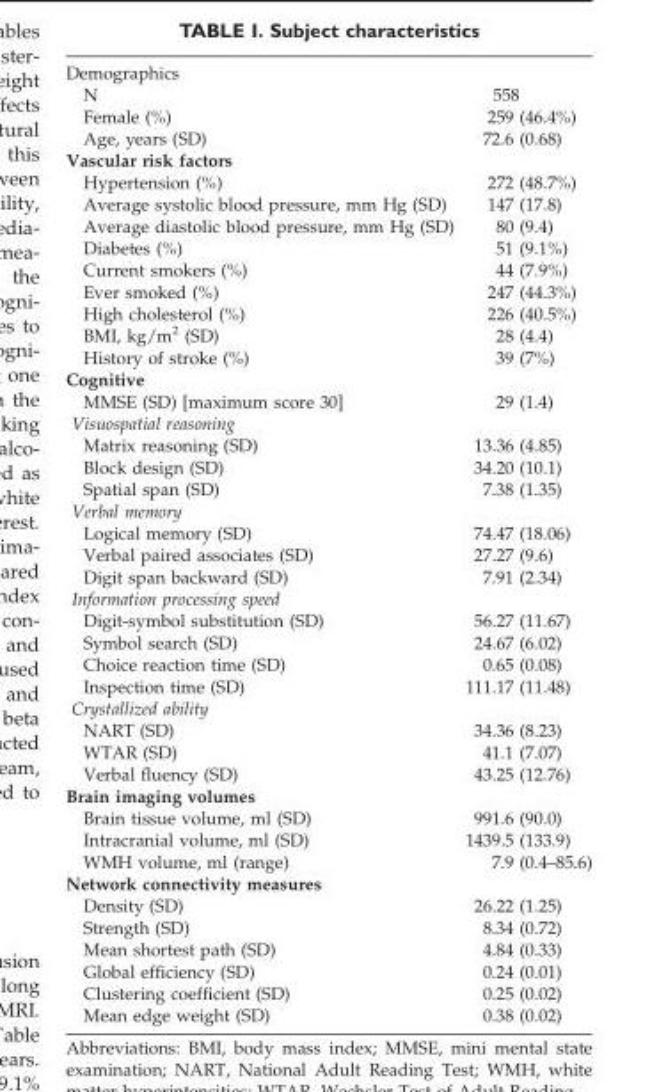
<table><tbody><tr><td colspan="2">Demographics</td></tr><tr><td>N</td><td>558</td></tr><tr><td>Female (%)</td><td>259 (46.4%)</td></tr><tr><td>Age, years (SD)</td><td>72.6 (0.68)</td></tr><tr><td colspan="2">Vascular risk factors</td></tr><tr><td>Hypertension (%)</td><td>272 (48.7%)</td></tr><tr><td>Average systolic blood pressure, mm Hg (SD)</td><td>147 (17.8)</td></tr><tr><td>Average diastolic blood pressure, mm Hg (SD)</td><td>80 (9.4)</td></tr><tr><td>Diabetes (%)</td><td>51 (9.1%)</td></tr><tr><td>Current smokers (%)</td><td>44 (7.9%)</td></tr><tr><td>Ever smoked (%)</td><td>247 (44.3%)</td></tr><tr><td>High cholesterol (%)</td><td>226 (40.5%)</td></tr><tr><td>BMI, kg/m<sup>2</sup> (SD)</td><td>28 (4.4)</td></tr><tr><td>History of stroke (%)</td><td>39 (7%)</td></tr><tr><td colspan="2">Cognitive</td></tr><tr><td>MMSE (SD) [maximum score 30]</td><td>29 (1.4)</td></tr><tr><td colspan="2">Visuospatial reasoning</td></tr><tr><td>Matrix reasoning (SD)</td><td>13.36 (4.85)</td></tr><tr><td>Block design (SD)</td><td>34.20 (10.1)</td></tr><tr><td>Spatial span (SD)</td><td>7.38 (1.35)</td></tr><tr><td colspan="2">Verbal memory</td></tr><tr><td>Logical memory (SD)</td><td>74.47 (18.06)</td></tr><tr><td>Verbal paired associates (SD)</td><td>27.27 (9.6)</td></tr><tr><td>Digit span backward (SD)</td><td>7.91 (2.34)</td></tr><tr><td colspan="2">Information processing speed</td></tr><tr><td>Digit-symbol substitution (SD)</td><td>56.27 (11.67)</td></tr><tr><td>Symbol search (SD)</td><td>24.67 (6.02)</td></tr><tr><td>Choice reaction time (SD)</td><td>0.65 (0.08)</td></tr><tr><td>Inspection time (SD)</td><td>111.17 (11.48)</td></tr><tr><td colspan="2">Crystallized ability</td></tr><tr><td>NART (SD)</td><td>34.36 (8.23)</td></tr><tr><td>WTAR (SD)</td><td>41.1 (7.07)</td></tr><tr><td>Verbal fluency (SD)</td><td>43.25 (12.76)</td></tr><tr><td colspan="2">Brain imaging volumes</td></tr><tr><td>Brain tissue volume, ml (SD)</td><td>991.6 (90.0)</td></tr><tr><td>Intracranial volume, ml (SD)</td><td>1439.5 (133.9)</td></tr><tr><td>WMH volume, ml (range)</td><td>7.9 (0.4–85.6)</td></tr><tr><td colspan="2">Network connectivity measures</td></tr><tr><td>Density (SD)</td><td>26.22 (1.25)</td></tr><tr><td>Strength (SD)</td><td>8.34 (0.72)</td></tr><tr><td>Mean shortest path (SD)</td><td>4.84 (0.33)</td></tr><tr><td>Global efficiency (SD)</td><td>0.24 (0.01)</td></tr><tr><td>Clustering coefficient (SD)</td><td>0.25 (0.02)</td></tr><tr><td>Mean edge weight (SD)</td><td>0.38 (0.02)</td></tr></tbody></table>